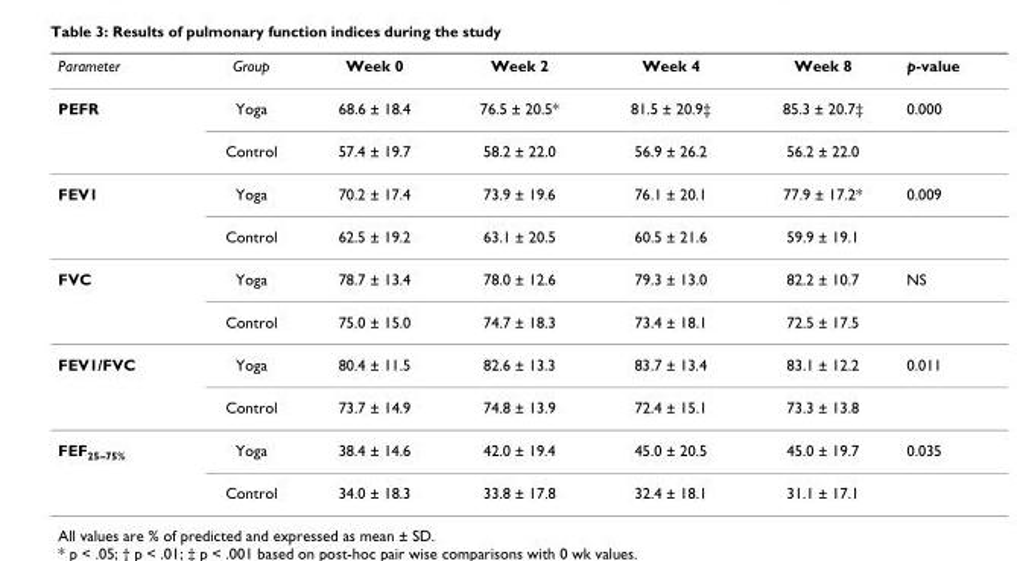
<table><thead><tr><td>Parameter</td><td>Group</td><td>Week 0</td><td>Week 2</td><td>Week 4</td><td>Week 8</td><td>p-value</td></tr></thead><tbody><tr><td rowspan="2">PEFR</td><td>Yoga</td><td>68.6 ± 18.4</td><td>76.5 ± 20.5*</td><td>81.5 ± 20.9‡</td><td>85.3 ± 20.7‡</td><td>0.000</td></tr><tr><td>Control</td><td>57.4 ± 19.7</td><td>58.2 ± 22.0</td><td>56.9 ± 26.2</td><td>56.2 ± 22.0</td><td></td></tr><tr><td rowspan="2">FEV1</td><td>Yoga</td><td>70.2 ± 17.4</td><td>73.9 ± 19.6</td><td>76.1 ± 20.1</td><td>77.9 ± 17.2*</td><td>0.009</td></tr><tr><td>Control</td><td>62.5 ± 19.2</td><td>63.1 ± 20.5</td><td>60.5 ± 21.6</td><td>59.9 ± 19.1</td><td></td></tr><tr><td rowspan="2">FVC</td><td>Yoga</td><td>78.7 ± 13.4</td><td>78.0 ± 12.6</td><td>79.3 ± 13.0</td><td>82.2 ± 10.7</td><td>NS</td></tr><tr><td>Control</td><td>75.0 ± 15.0</td><td>74.7 ± 18.3</td><td>73.4 ± 18.1</td><td>72.5 ± 17.5</td><td></td></tr><tr><td rowspan="2">FEV1/FVC</td><td>Yoga</td><td>80.4 ± 11.5</td><td>82.6 ± 13.3</td><td>83.7 ± 13.4</td><td>83.1 ± 12.2</td><td>0.011</td></tr><tr><td>Control</td><td>73.7 ± 14.9</td><td>74.8 ± 13.9</td><td>72.4 ± 15.1</td><td>73.3 ± 13.8</td><td></td></tr><tr><td rowspan="2">FEF<sub>25–75%</sub></td><td>Yoga</td><td>38.4 ± 14.6</td><td>42.0 ± 19.4</td><td>45.0 ± 20.5</td><td>45.0 ± 19.7</td><td>0.035</td></tr><tr><td>Control</td><td>34.0 ± 18.3</td><td>33.8 ± 17.8</td><td>32.4 ± 18.1</td><td>31.1 ± 17.1</td><td></td></tr></tbody></table>